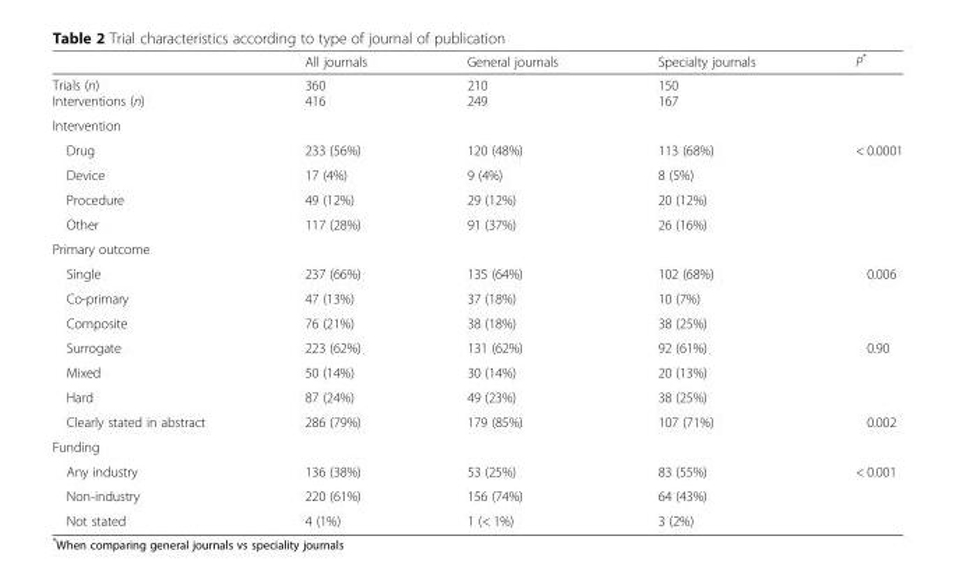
<table><thead><tr><td></td><td>All journals</td><td>General journals</td><td>Specialty journals</td><td>P*</td></tr></thead><tbody><tr><td>Trials (n) Interventions (n)</td><td>360 416</td><td>210 249</td><td>150 167</td><td></td></tr><tr><td colspan="5">Intervention</td></tr><tr><td>Drug</td><td>233 (56%)</td><td>120 (48%)</td><td>113 (68%)</td><td rowspan="4">&lt; 0.0001</td></tr><tr><td>Device</td><td>17 (4%)</td><td>9 (4%)</td><td>8 (5%)</td></tr><tr><td>Procedure</td><td>49 (12%)</td><td>29 (12%)</td><td>20 (12%)</td></tr><tr><td>Other</td><td>117 (28%)</td><td>91 (37%)</td><td>26 (16%)</td></tr><tr><td colspan="5">Primary outcome</td></tr><tr><td>Single</td><td>237 (66%)</td><td>135 (64%)</td><td>102 (68%)</td><td rowspan="3">0.006</td></tr><tr><td>Co-primary</td><td>47 (13%)</td><td>37 (18%)</td><td>10 (7%)</td></tr><tr><td>Composite</td><td>76 (21%)</td><td>38 (18%)</td><td>38 (25%)</td></tr><tr><td>Surrogate</td><td>223 (62%)</td><td>131 (62%)</td><td>92 (61%)</td><td rowspan="3">0.90</td></tr><tr><td>Mixed</td><td>50 (14%)</td><td>30 (14%)</td><td>20 (13%)</td></tr><tr><td>Hard</td><td>87 (24%)</td><td>49 (23%)</td><td>38 (25%)</td></tr><tr><td>Clearly stated in abstract</td><td>286 (79%)</td><td>179 (85%)</td><td>107 (71%)</td><td>0.002</td></tr><tr><td colspan="5">Funding</td></tr><tr><td>Any industry</td><td>136 (38%)</td><td>53 (25%)</td><td>83 (55%)</td><td rowspan="3">&lt; 0.001</td></tr><tr><td>Non-industry</td><td>220 (61%)</td><td>156 (74%)</td><td>64 (43%)</td></tr><tr><td>Not stated</td><td>4 (1%)</td><td>1 (&lt; 1%)</td><td>3 (2%)</td></tr></tbody></table>